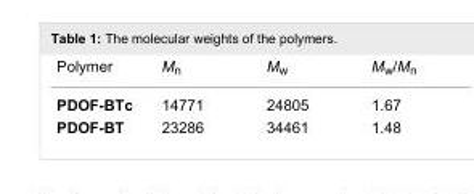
<table><tbody><tr><td>Polymer</td><td>M<sub>n</sub></td><td>M<sub>w</sub></td><td>M<sub>w</sub>/M<sub>n</sub></td></tr><tr><td>PDOF-BTc</td><td>14771</td><td>24805</td><td>1.67</td></tr><tr><td>PDOF-BT</td><td>23286</td><td>34461</td><td>1.48</td></tr></tbody></table>